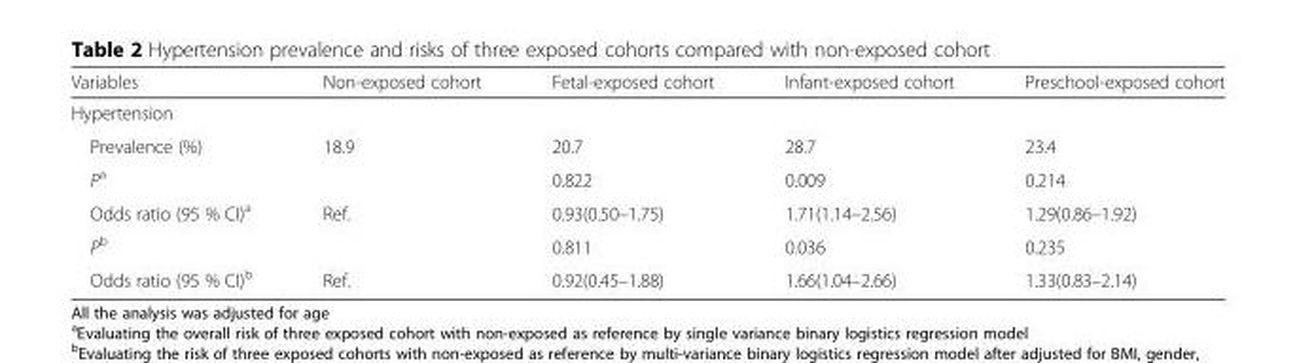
<table><thead><tr><td>Variables</td><td>Non-exposed cohort</td><td>Fetal-exposed cohort</td><td>Infant-exposed cohort</td><td>Preschool-exposed cohort</td></tr></thead><tbody><tr><td colspan="5">Hypertension</td></tr><tr><td>Prevalence (%)</td><td>18.9</td><td>20.7</td><td>28.7</td><td>23.4</td></tr><tr><td>P<sup>a</sup></td><td></td><td>0.822</td><td>0.009</td><td>0.214</td></tr><tr><td>Odds ratio (95 % CI)<sup>a</sup></td><td>Ref.</td><td>0.93(0.50–1.75)</td><td>1.71(1.14–2.56)</td><td>1.29(0.86–1.92)</td></tr><tr><td>P<sup>b</sup></td><td></td><td>0.811</td><td>0.036</td><td>0.235</td></tr><tr><td>Odds ratio (95 % CI)<sup>b</sup></td><td>Ref.</td><td>0.92(0.45–1.88)</td><td>1.66(1.04–2.66)</td><td>1.33(0.83–2.14)</td></tr></tbody></table>